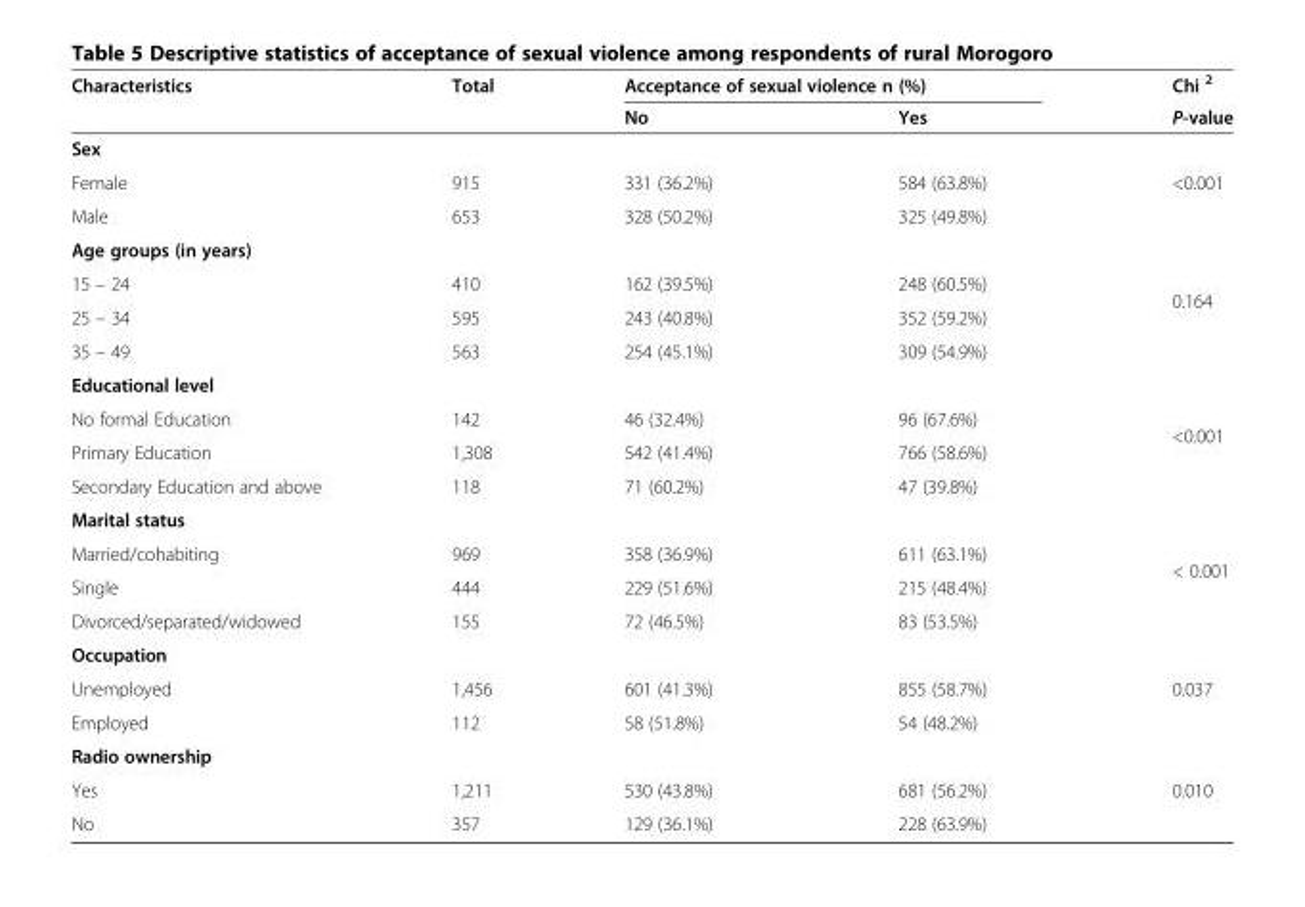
<table><thead><tr><td rowspan="2">Characteristics</td><td rowspan="2">Total</td><td colspan="2">Acceptance of sexual violence n (%)</td><td rowspan="2">Chi <sup>2</sup> P-value</td></tr><tr><td>No</td><td>Yes</td></tr></thead><tbody><tr><td colspan="4">Sex</td><td rowspan="3">&lt;0.001</td></tr><tr><td>Female</td><td>915</td><td>331 (36.2%)</td><td>584 (63.8%)</td></tr><tr><td>Male</td><td>653</td><td>328 (50.2%)</td><td>325 (49.8%)</td></tr><tr><td colspan="4">Age groups (in years)</td><td rowspan="4">0.164</td></tr><tr><td>15 – 24</td><td>410</td><td>162 (39.5%)</td><td>248 (60.5%)</td></tr><tr><td>25 – 34</td><td>595</td><td>243 (40.8%)</td><td>352 (59.2%)</td></tr><tr><td>35 – 49</td><td>563</td><td>254 (45.1%)</td><td>309 (54.9%)</td></tr><tr><td colspan="4">Educational level</td><td rowspan="4">&lt;0.001</td></tr><tr><td>No formal Education</td><td>142</td><td>46 (32.4%)</td><td>96 (67.6%)</td></tr><tr><td>Primary Education</td><td>1,308</td><td>542 (41.4%)</td><td>766 (58.6%)</td></tr><tr><td>Secondary Education and above</td><td>118</td><td>71 (60.2%)</td><td>47 (39.8%)</td></tr><tr><td colspan="4">Marital status</td><td rowspan="4">&lt; 0.001</td></tr><tr><td>Married/cohabiting</td><td>969</td><td>358 (36.9%)</td><td>611 (63.1%)</td></tr><tr><td>Single</td><td>444</td><td>229 (51.6%)</td><td>215 (48.4%)</td></tr><tr><td>Divorced/separated/widowed</td><td>155</td><td>72 (46.5%)</td><td>83 (53.5%)</td></tr><tr><td colspan="4">Occupation</td><td rowspan="3">0.037</td></tr><tr><td>Unemployed</td><td>1,456</td><td>601 (41.3%)</td><td>855 (58.7%)</td></tr><tr><td>Employed</td><td>112</td><td>58 (51.8%)</td><td>54 (48.2%)</td></tr><tr><td colspan="4">Radio ownership</td><td rowspan="3">0.010</td></tr><tr><td>Yes</td><td>1,211</td><td>530 (43.8%)</td><td>681 (56.2%)</td></tr><tr><td>No</td><td>357</td><td>129 (36.1%)</td><td>228 (63.9%)</td></tr></tbody></table>